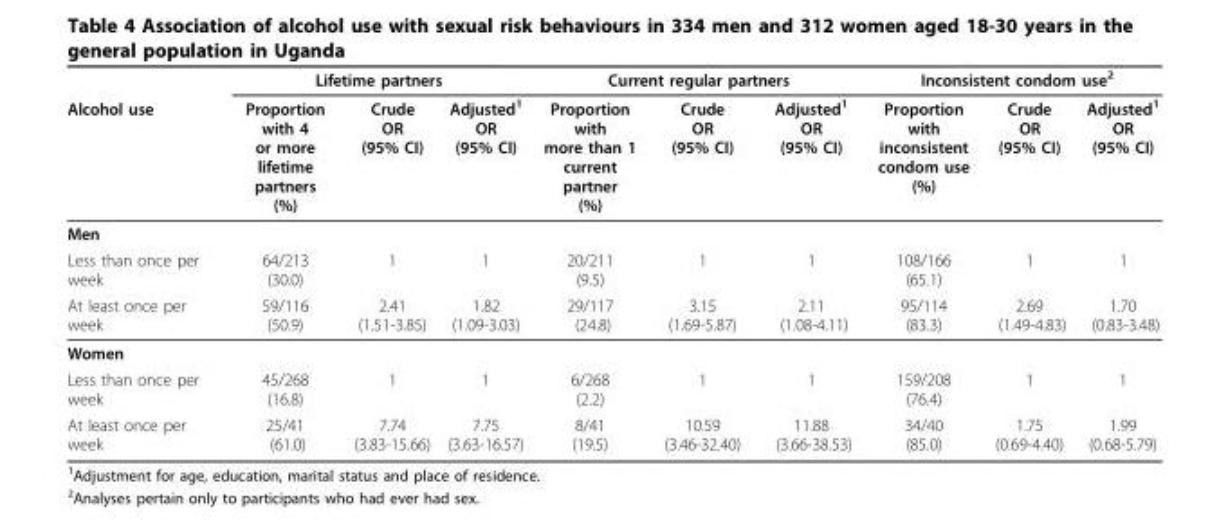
<table><thead><tr><td rowspan="2">Alcohol use</td><td colspan="3">Lifetime partners</td><td colspan="3">Current regular partners</td><td colspan="3">Inconsistent condom use<sup>2</sup></td></tr><tr><td>Proportion with 4 or more lifetime partners (%)</td><td>Crude OR (95% CI)</td><td>Adjusted<sup>1</sup> OR (95% CI)</td><td>Proportion with more than 1 current partner (%)</td><td>Crude OR (95% CI)</td><td>Adjusted<sup>1</sup> OR (95% CI)</td><td>Proportion with inconsistent condom use (%)</td><td>Crude OR (95% CI)</td><td>Adjusted<sup>1</sup> OR (95% CI)</td></tr></thead><tbody><tr><td colspan="10">Men</td></tr><tr><td>Less than once per week</td><td>64/213 (30.0)</td><td>1</td><td>1</td><td>20/211 (9.5)</td><td>1</td><td>1</td><td>108/166 (65.1)</td><td>1</td><td>1</td></tr><tr><td>At least once per week</td><td>59/116 (50.9)</td><td>2.41 (1.51-3.85)</td><td>1.82 (1.09-3.03)</td><td>29/117 (24.8)</td><td>3.15 (1.69-5.87)</td><td>2.11 (1.08-4.11)</td><td>95/114 (83.3)</td><td>2.69 (1.49-4.83)</td><td>1.70 (0.83-3.48)</td></tr><tr><td colspan="10">Women</td></tr><tr><td>Less than once per week</td><td>45/268 (16.8)</td><td>1</td><td>1</td><td>6/268 (2.2)</td><td>1</td><td>1</td><td>159/208 (76.4)</td><td>1</td><td>1</td></tr><tr><td>At least once per week</td><td>25/41 (61.0)</td><td>7.74 (3.83-15.66)</td><td>7.75 (3.63-16.57)</td><td>8/41 (19.5)</td><td>10.59 (3.46-32.40)</td><td>11.88 (3.66-38.53)</td><td>34/40 (85.0)</td><td>1.75 (0.69-4.40)</td><td>1.99 (0.68-5.79)</td></tr></tbody></table>